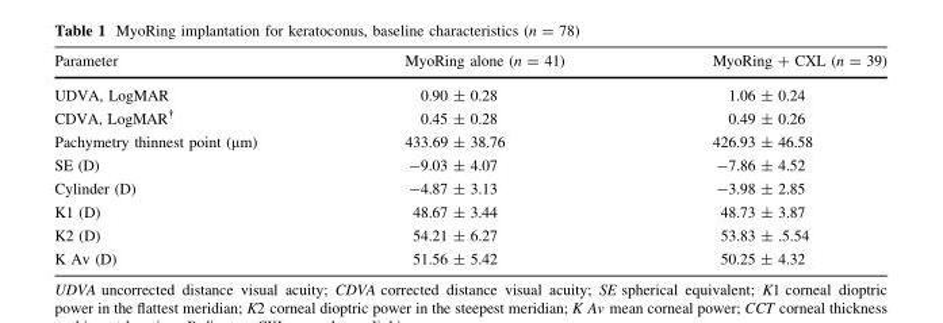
<table><thead><tr><td>Parameter</td><td>MyoRing alone (n = 41)</td><td>MyoRing + CXL (n = 39)</td></tr></thead><tbody><tr><td>UDVA, LogMAR</td><td>0.90 ± 0.28</td><td>1.06 ± 0.24</td></tr><tr><td>CDVA, LogMAR<sup>†</sup></td><td>0.45 ± 0.28</td><td>0.49 ± 0.26</td></tr><tr><td>Pachymetry thinnest point (μm)</td><td>433.69 ± 38.76</td><td>426.93 ± 46.58</td></tr><tr><td>SE (D)</td><td>-9.03 ± 4.07</td><td>-7.86 ± 4.52</td></tr><tr><td>Cylinder (D)</td><td>-4.87 ± 3.13</td><td>-3.98 ± 2.85</td></tr><tr><td>K1 (D)</td><td>48.67 ± 3.44</td><td>48.73 ± 3.87</td></tr><tr><td>K2 (D)</td><td>54.21 ± 6.27</td><td>53.83 ± .5.54</td></tr><tr><td>K Av (D)</td><td>51.56 ± 5.42</td><td>50.25 ± 4.32</td></tr></tbody></table>